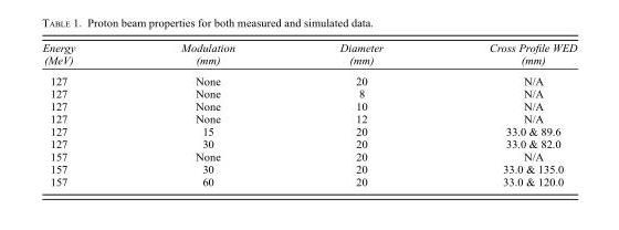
<table><thead><tr><td>Energy (MeV)</td><td>Modulation (mm)</td><td>Diameter (mm)</td><td>Cross Profile WED (mm)</td></tr></thead><tbody><tr><td>127</td><td>None</td><td>20</td><td>N/A</td></tr><tr><td>127</td><td>None</td><td>8</td><td>N/A</td></tr><tr><td>127</td><td>None</td><td>10</td><td>N/A</td></tr><tr><td>127</td><td>None</td><td>12</td><td>N/A</td></tr><tr><td>127</td><td>15</td><td>20</td><td>33.0 &amp; 89.6</td></tr><tr><td>127</td><td>30</td><td>20</td><td>33.0 &amp; 82.0</td></tr><tr><td>157</td><td>None</td><td>20</td><td>N/A</td></tr><tr><td>157</td><td>30</td><td>20</td><td>33.0 &amp; 135.0</td></tr><tr><td>157</td><td>60</td><td>20</td><td>33.0 &amp; 120.0</td></tr></tbody></table>